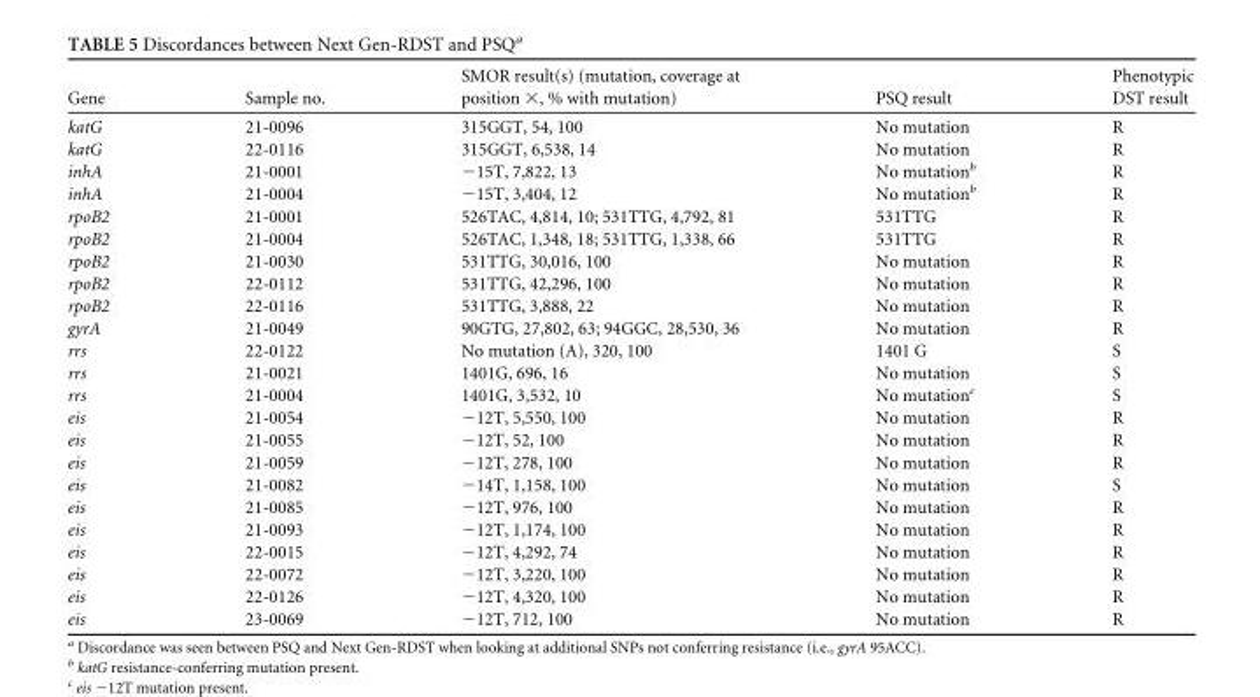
<table><thead><tr><td>Gene</td><td>Sample no.</td><td>SMOR result(s) (mutation, coverage at position ×, % with mutation)</td><td>PSQ result</td><td>Phenotypic DST result</td></tr></thead><tbody><tr><td>katG</td><td>21-0096</td><td>315GGT, 54, 100</td><td>No mutation</td><td>R</td></tr><tr><td>katG</td><td>22-0116</td><td>315GGT, 6,538, 14</td><td>No mutation</td><td>R</td></tr><tr><td>inhA</td><td>21-0001</td><td>−15T, 7,822, 13</td><td>No mutation<sup>b</sup></td><td>R</td></tr><tr><td>inhA</td><td>21-0004</td><td>−15T, 3,404, 12</td><td>No mutation<sup>b</sup></td><td>R</td></tr><tr><td>rpoB2</td><td>21-0001</td><td>526TAC, 4,814, 10; 531TTG, 4,792, 81</td><td>531TTG</td><td>R</td></tr><tr><td>rpoB2</td><td>21-0004</td><td>526TAC, 1,348, 18; 531TTG, 1,338, 66</td><td>531TTG</td><td>R</td></tr><tr><td>rpoB2</td><td>21-0030</td><td>531TTG, 30,016, 100</td><td>No mutation</td><td>R</td></tr><tr><td>rpoB2</td><td>22-0112</td><td>531TTG, 42,296, 100</td><td>No mutation</td><td>R</td></tr><tr><td>rpoB2</td><td>22-0116</td><td>531TTG, 3,888, 22</td><td>No mutation</td><td>R</td></tr><tr><td>gyrA</td><td>21-0049</td><td>90GTG, 27,802, 63; 94GGC, 28,530, 36</td><td>No mutation</td><td>R</td></tr><tr><td>rrs</td><td>22-0122</td><td>No mutation (A), 320, 100</td><td>1401 G</td><td>S</td></tr><tr><td>rrs</td><td>21-0021</td><td>1401G, 696, 16</td><td>No mutation</td><td>S</td></tr><tr><td>rrs</td><td>21-0004</td><td>1401G, 3,532, 10</td><td>No mutation<sup>c</sup></td><td>S</td></tr><tr><td>eis</td><td>21-0054</td><td>−12T, 5,550, 100</td><td>No mutation</td><td>R</td></tr><tr><td>eis</td><td>21-0055</td><td>−12T, 52, 100</td><td>No mutation</td><td>R</td></tr><tr><td>eis</td><td>21-0059</td><td>−12T, 278, 100</td><td>No mutation</td><td>R</td></tr><tr><td>eis</td><td>21-0082</td><td>−14T, 1,158, 100</td><td>No mutation</td><td>S</td></tr><tr><td>eis</td><td>21-0085</td><td>−12T, 976, 100</td><td>No mutation</td><td>R</td></tr><tr><td>eis</td><td>21-0093</td><td>−12T, 1,174, 100</td><td>No mutation</td><td>R</td></tr><tr><td>eis</td><td>22-0015</td><td>−12T, 4,292, 74</td><td>No mutation</td><td>R</td></tr><tr><td>eis</td><td>22-0072</td><td>−12T, 3,220, 100</td><td>No mutation</td><td>R</td></tr><tr><td>eis</td><td>22-0126</td><td>−12T, 4,320, 100</td><td>No mutation</td><td>R</td></tr><tr><td>eis</td><td>23-0069</td><td>−12T, 712, 100</td><td>No mutation</td><td>R</td></tr></tbody></table>